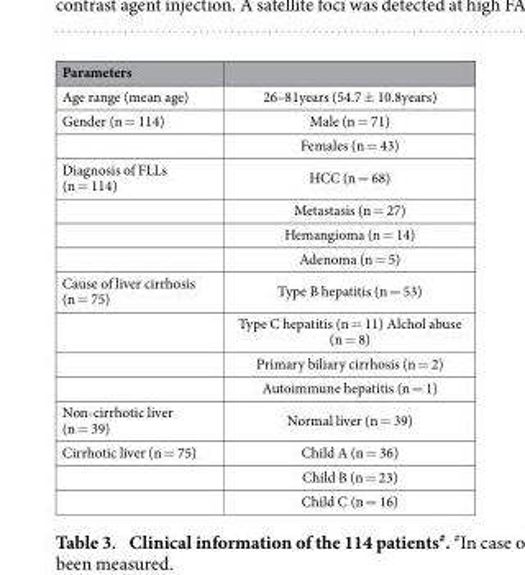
<table><thead><tr><td colspan="2">Parameters</td></tr><tr><td>Age range (mean age)</td><td>26–81years (54.7 ± 10.8years)</td></tr></thead><tbody><tr><td rowspan="2">Gender (n = 114)</td><td>Male (n = 71)</td></tr><tr><td>Females (n = 43)</td></tr><tr><td rowspan="4">Diagnosis of FLLs (n = 114)</td><td>HCC (n = 68)</td></tr><tr><td>Metastasis (n = 27)</td></tr><tr><td>Hemangioma (n = 14)</td></tr><tr><td>Adenoma (n = 5)</td></tr><tr><td rowspan="4">Cause of liver cirrhosis (n = 75)</td><td>Type B hepatitis (n = 53)</td></tr><tr><td>Type C hepatitis (n = 11) Alchol abuse (n = 8)</td></tr><tr><td>Primary biliary cirrhosis (n = 2)</td></tr><tr><td>Autoimmune hepatitis (n = 1)</td></tr><tr><td>Non-cirrhotic liver (n = 39)</td><td>Normal liver (n = 39)</td></tr><tr><td rowspan="3">Cirrhotic liver (n = 75)</td><td>Child A (n = 36)</td></tr><tr><td>Child B (n = 23)</td></tr><tr><td>Child C (n = 16)</td></tr></tbody></table>